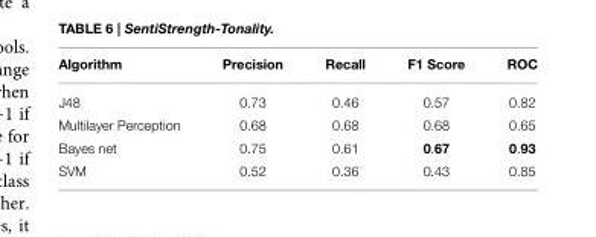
<table><thead><tr><td>Algorithm</td><td>Precision</td><td>Recall</td><td>F1 Score</td><td>ROC</td></tr></thead><tbody><tr><td>J48</td><td>0.73</td><td>0.46</td><td>0.57</td><td>0.82</td></tr><tr><td>Multilayer Perception</td><td>0.68</td><td>0.68</td><td>0.68</td><td>0.65</td></tr><tr><td>Bayes net</td><td>0.75</td><td>0.61</td><td>0.67</td><td>0.93</td></tr><tr><td>SVM</td><td>0.52</td><td>0.36</td><td>0.43</td><td>0.85</td></tr></tbody></table>